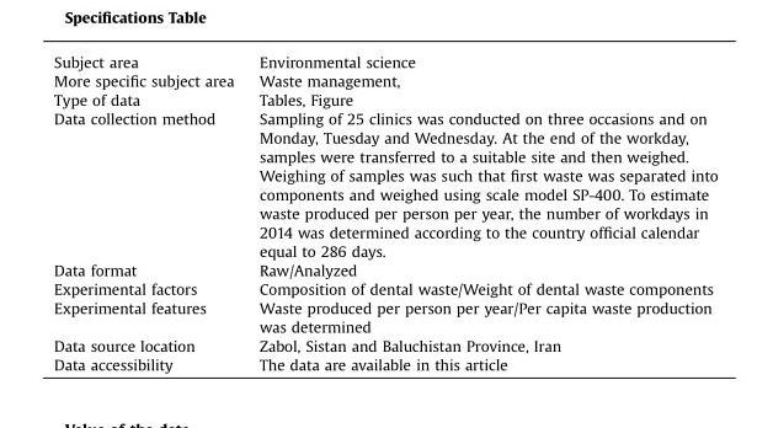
<table><tbody><tr><td>Subject area</td><td>Environmental science</td></tr><tr><td>More specific subject area</td><td>Waste management,</td></tr><tr><td>Type of data</td><td>Tables, Figure</td></tr><tr><td>Data collection method</td><td>Sampling of 25 clinics was conducted on three occasions and on Monday, Tuesday and Wednesday. At the end of the workday, samples were transferred to a suitable site and then weighed. Weighing of samples was such that first waste was separated into components and weighed using scale model SP-400. To estimate waste produced per person per year, the number of workdays in 2014 was determined according to the country official calendar equal to 286 days.</td></tr><tr><td>Data format</td><td>Raw/Analyzed</td></tr><tr><td>Experimental factors</td><td>Composition of dental waste/Weight of dental waste components</td></tr><tr><td>Experimental features</td><td>Waste produced per person per year/Per capita waste production was determined</td></tr><tr><td>Data source location</td><td>Zabol, Sistan and Baluchistan Province, Iran</td></tr><tr><td>Data accessibility</td><td>The data are available in this article</td></tr></tbody></table>